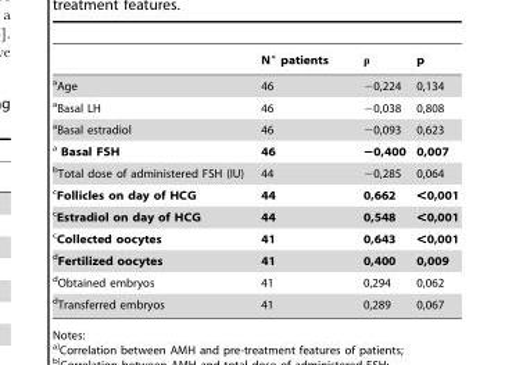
<table><thead><tr><td></td><td>N° patients</td><td>ρ</td><td>p</td></tr></thead><tbody><tr><td><sup>a</sup>Age</td><td>46</td><td>−0,224</td><td>0,134</td></tr><tr><td><sup>a</sup>Basal LH</td><td>46</td><td>−0,038</td><td>0,808</td></tr><tr><td><sup>a</sup>Basal estradiol</td><td>46</td><td>−0,093</td><td>0,623</td></tr><tr><td><sup>a</sup> Basal FSH</td><td>46</td><td>−0,400</td><td>0,007</td></tr><tr><td><sup>b</sup>Total dose of administered FSH (IU)</td><td>44</td><td>−0,285</td><td>0,064</td></tr><tr><td><sup>c</sup>Follicles on day of HCG</td><td>44</td><td>0,662</td><td>&lt;0,001</td></tr><tr><td><sup>c</sup>Estradiol on day of HCG</td><td>44</td><td>0,548</td><td>&lt;0,001</td></tr><tr><td><sup>c</sup>Collected oocytes</td><td>41</td><td>0,643</td><td>&lt;0,001</td></tr><tr><td><sup>d</sup>Fertilized oocytes</td><td>41</td><td>0,400</td><td>0,009</td></tr><tr><td><sup>d</sup>Obtained embryos</td><td>41</td><td>0,294</td><td>0,062</td></tr><tr><td><sup>d</sup>Transferred embryos</td><td>41</td><td>0,289</td><td>0,067</td></tr></tbody></table>